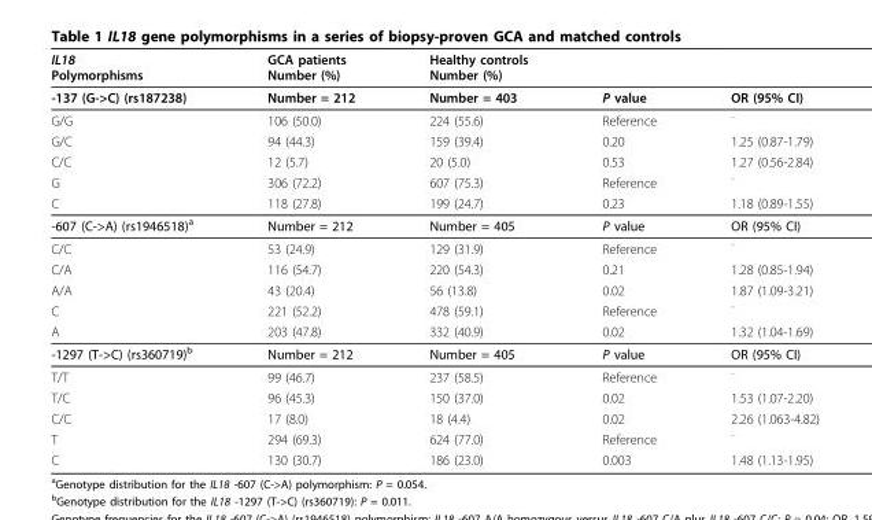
<table><thead><tr><td>IL18 Polymorphisms</td><td>GCA patients Number (%)</td><td>Healthy controls Number (%)</td><td></td><td></td></tr></thead><tbody><tr><td>-137 (G-&gt;C) (rs187238)</td><td>Number = 212</td><td>Number = 403</td><td>P value</td><td>OR (95% CI)</td></tr><tr><td>G/G</td><td>106 (50.0)</td><td>224 (55.6)</td><td>Reference</td><td><sup>-</sup></td></tr><tr><td>G/C</td><td>94 (44.3)</td><td>159 (39.4)</td><td>0.20</td><td>1.25 (0.87-1.79)</td></tr><tr><td>C/C</td><td>12 (5.7)</td><td>20 (5.0)</td><td>0.53</td><td>1.27 (0.56-2.84)</td></tr><tr><td>G</td><td>306 (72.2)</td><td>607 (75.3)</td><td>Reference</td><td><sup>-</sup></td></tr><tr><td>C</td><td>118 (27.8)</td><td>199 (24.7)</td><td>0.23</td><td>1.18 (0.89-1.55)</td></tr><tr><td>-607 (C-&gt;A) (rs1946518)<sup>a</sup></td><td>Number = 212</td><td>Number = 405</td><td>P value</td><td>OR (95% CI)</td></tr><tr><td>C/C</td><td>53 (24.9)</td><td>129 (31.9)</td><td>Reference</td><td><sup>-</sup></td></tr><tr><td>C/A</td><td>116 (54.7)</td><td>220 (54.3)</td><td>0.21</td><td>1.28 (0.85-1.94)</td></tr><tr><td>A/A</td><td>43 (20.4)</td><td>56 (13.8)</td><td>0.02</td><td>1.87 (1.09-3.21)</td></tr><tr><td>C</td><td>221 (52.2)</td><td>478 (59.1)</td><td>Reference</td><td><sup>-</sup></td></tr><tr><td>A</td><td>203 (47.8)</td><td>332 (40.9)</td><td>0.02</td><td>1.32 (1.04-1.69)</td></tr><tr><td>-1297 (T-&gt;C) (rs360719)<sup>b</sup></td><td>Number = 212</td><td>Number = 405</td><td>P value</td><td>OR (95% CI)</td></tr><tr><td>T/T</td><td>99 (46.7)</td><td>237 (58.5)</td><td>Reference</td><td><sup>-</sup></td></tr><tr><td>T/C</td><td>96 (45.3)</td><td>150 (37.0)</td><td>0.02</td><td>1.53 (1.07-2.20)</td></tr><tr><td>C/C</td><td>17 (8.0)</td><td>18 (4.4)</td><td>0.02</td><td>2.26 (1.063-4.82)</td></tr><tr><td>T</td><td>294 (69.3)</td><td>624 (77.0)</td><td>Reference</td><td><sup>-</sup></td></tr><tr><td>C</td><td>130 (30.7)</td><td>186 (23.0)</td><td>0.003</td><td>1.48 (1.13-1.95)</td></tr></tbody></table>